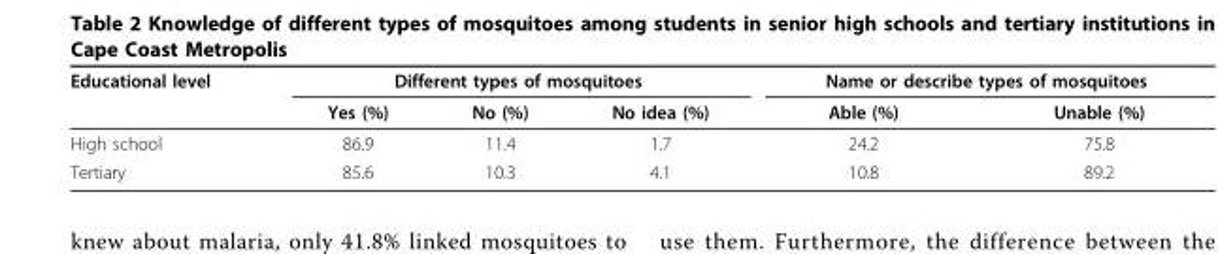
<table><thead><tr><td rowspan="2">Educational level</td><td colspan="3">Different types of mosquitoes</td><td colspan="2">Name or describe types of mosquitoes</td></tr><tr><td>Yes (%)</td><td>No (%)</td><td>No idea (%)</td><td>Able (%)</td><td>Unable (%)</td></tr></thead><tbody><tr><td>High school</td><td>86.9</td><td>11.4</td><td>1.7</td><td>24.2</td><td>75.8</td></tr><tr><td>Tertiary</td><td>85.6</td><td>10.3</td><td>4.1</td><td>10.8</td><td>89.2</td></tr></tbody></table>